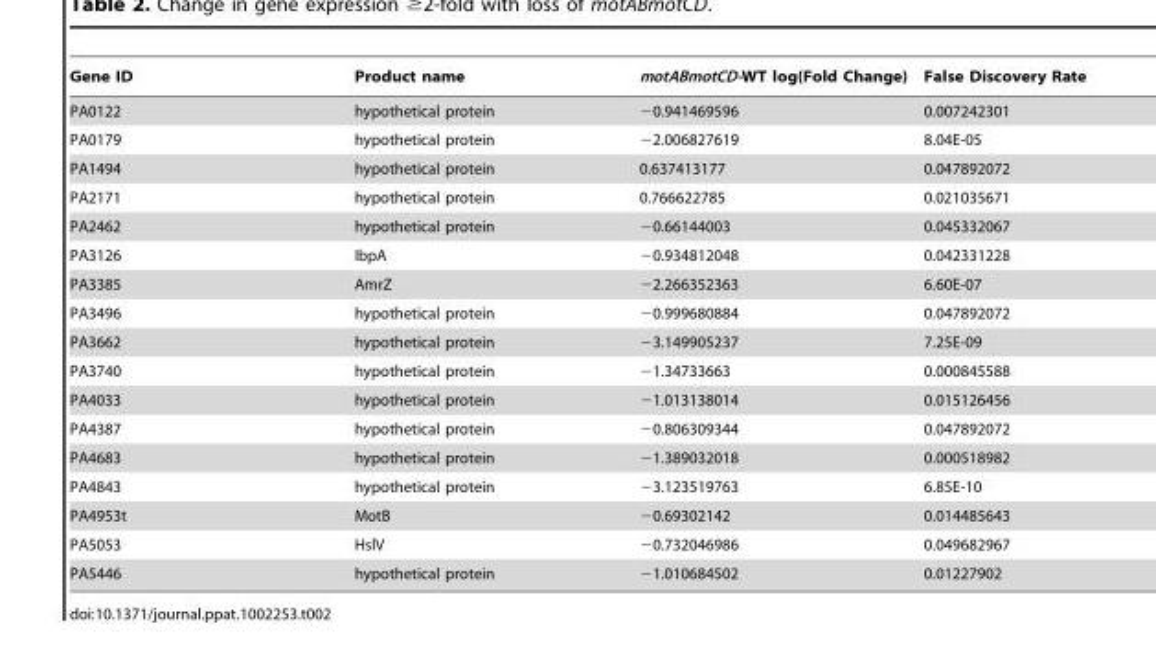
<table><thead><tr><td>Gene ID</td><td>Product name</td><td>motABmotCD-WT log(Fold Change)</td><td>False Discovery Rate</td></tr></thead><tbody><tr><td>PA0122</td><td>hypothetical protein</td><td>−0.941469596</td><td>0.007242301</td></tr><tr><td>PA0179</td><td>hypothetical protein</td><td>−2.006827619</td><td>8.04E-05</td></tr><tr><td>PA1494</td><td>hypothetical protein</td><td>0.637413177</td><td>0.047892072</td></tr><tr><td>PA2171</td><td>hypothetical protein</td><td>0.766622785</td><td>0.021035671</td></tr><tr><td>PA2462</td><td>hypothetical protein</td><td>−0.66144003</td><td>0.045332067</td></tr><tr><td>PA3126</td><td>IbpA</td><td>−0.934812048</td><td>0.042331228</td></tr><tr><td>PA3385</td><td>AmrZ</td><td>−2.266352363</td><td>6.60E-07</td></tr><tr><td>PA3496</td><td>hypothetical protein</td><td>−0.999680884</td><td>0.047892072</td></tr><tr><td>PA3662</td><td>hypothetical protein</td><td>−3.149905237</td><td>7.25E-09</td></tr><tr><td>PA3740</td><td>hypothetical protein</td><td>−1.34733663</td><td>0.000845588</td></tr><tr><td>PA4033</td><td>hypothetical protein</td><td>−1.013138014</td><td>0.015126456</td></tr><tr><td>PA4387</td><td>hypothetical protein</td><td>−0.806309344</td><td>0.047892072</td></tr><tr><td>PA4683</td><td>hypothetical protein</td><td>−1.389032018</td><td>0.000518982</td></tr><tr><td>PA4843</td><td>hypothetical protein</td><td>−3.123519763</td><td>6.85E-10</td></tr><tr><td>PA4953t</td><td>MotB</td><td>−0.69302142</td><td>0.014485643</td></tr><tr><td>PA5053</td><td>HslV</td><td>−0.732046986</td><td>0.049682967</td></tr><tr><td>PA5446</td><td>hypothetical protein</td><td>−1.010684502</td><td>0.01227902</td></tr></tbody></table>